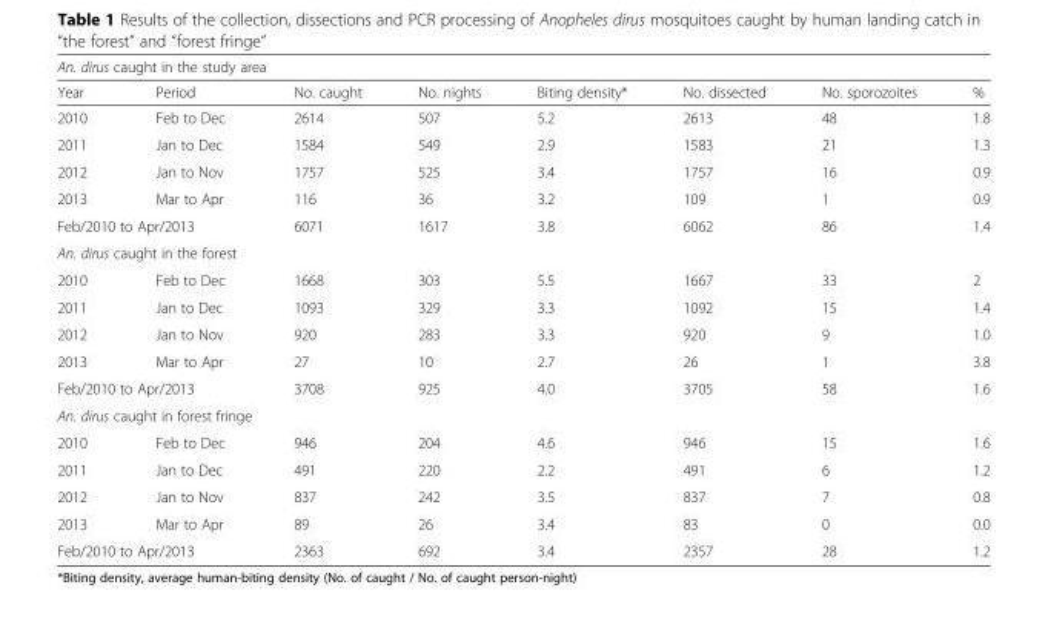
<table><thead><tr><td colspan="8">An. dirus caught in the study area</td></tr><tr><td>Year</td><td>Period</td><td>No. caught</td><td>No. nights</td><td>Biting density*</td><td>No. dissected</td><td>No. sporozoites</td><td>%</td></tr></thead><tbody><tr><td>2010</td><td>Feb to Dec</td><td>2614</td><td>507</td><td>5.2</td><td>2613</td><td>48</td><td>1.8</td></tr><tr><td>2011</td><td>Jan to Dec</td><td>1584</td><td>549</td><td>2.9</td><td>1583</td><td>21</td><td>1.3</td></tr><tr><td>2012</td><td>Jan to Nov</td><td>1757</td><td>525</td><td>3.4</td><td>1757</td><td>16</td><td>0.9</td></tr><tr><td>2013</td><td>Mar to Apr</td><td>116</td><td>36</td><td>3.2</td><td>109</td><td>1</td><td>0.9</td></tr><tr><td colspan="2">Feb/2010 to Apr/2013</td><td>6071</td><td>1617</td><td>3.8</td><td>6062</td><td>86</td><td>1.4</td></tr><tr><td colspan="8">An. dirus caught in the forest</td></tr><tr><td>2010</td><td>Feb to Dec</td><td>1668</td><td>303</td><td>5.5</td><td>1667</td><td>33</td><td>2</td></tr><tr><td>2011</td><td>Jan to Dec</td><td>1093</td><td>329</td><td>3.3</td><td>1092</td><td>15</td><td>1.4</td></tr><tr><td>2012</td><td>Jan to Nov</td><td>920</td><td>283</td><td>3.3</td><td>920</td><td>9</td><td>1.0</td></tr><tr><td>2013</td><td>Mar to Apr</td><td>27</td><td>10</td><td>2.7</td><td>26</td><td>1</td><td>3.8</td></tr><tr><td colspan="2">Feb/2010 to Apr/2013</td><td>3708</td><td>925</td><td>4.0</td><td>3705</td><td>58</td><td>1.6</td></tr><tr><td colspan="8">An. dirus caught in forest fringe</td></tr><tr><td>2010</td><td>Feb to Dec</td><td>946</td><td>204</td><td>4.6</td><td>946</td><td>15</td><td>1.6</td></tr><tr><td>2011</td><td>Jan to Dec</td><td>491</td><td>220</td><td>2.2</td><td>491</td><td>6</td><td>1.2</td></tr><tr><td>2012</td><td>Jan to Nov</td><td>837</td><td>242</td><td>3.5</td><td>837</td><td>7</td><td>0.8</td></tr><tr><td>2013</td><td>Mar to Apr</td><td>89</td><td>26</td><td>3.4</td><td>83</td><td>0</td><td>0.0</td></tr><tr><td colspan="2">Feb/2010 to Apr/2013</td><td>2363</td><td>692</td><td>3.4</td><td>2357</td><td>28</td><td>1.2</td></tr></tbody></table>